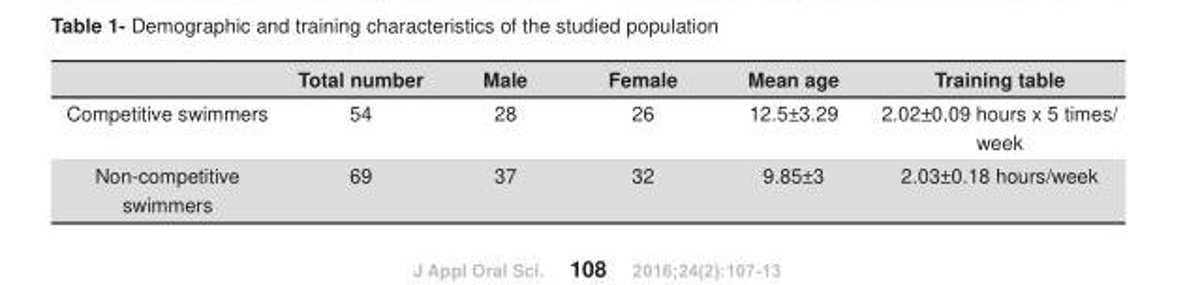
<table><thead><tr><td></td><td>Total number</td><td>Male</td><td>Female</td><td>Mean age</td><td>Training table</td></tr></thead><tbody><tr><td>Competitive swimmers</td><td>54</td><td>28</td><td>26</td><td>12.5±3.29</td><td>2.02±0.09 hours x 5 times/ week</td></tr><tr><td>Non-competitive swimmers</td><td>69</td><td>37</td><td>32</td><td>9.85±3</td><td>2.03±0.18 hours/week</td></tr></tbody></table>